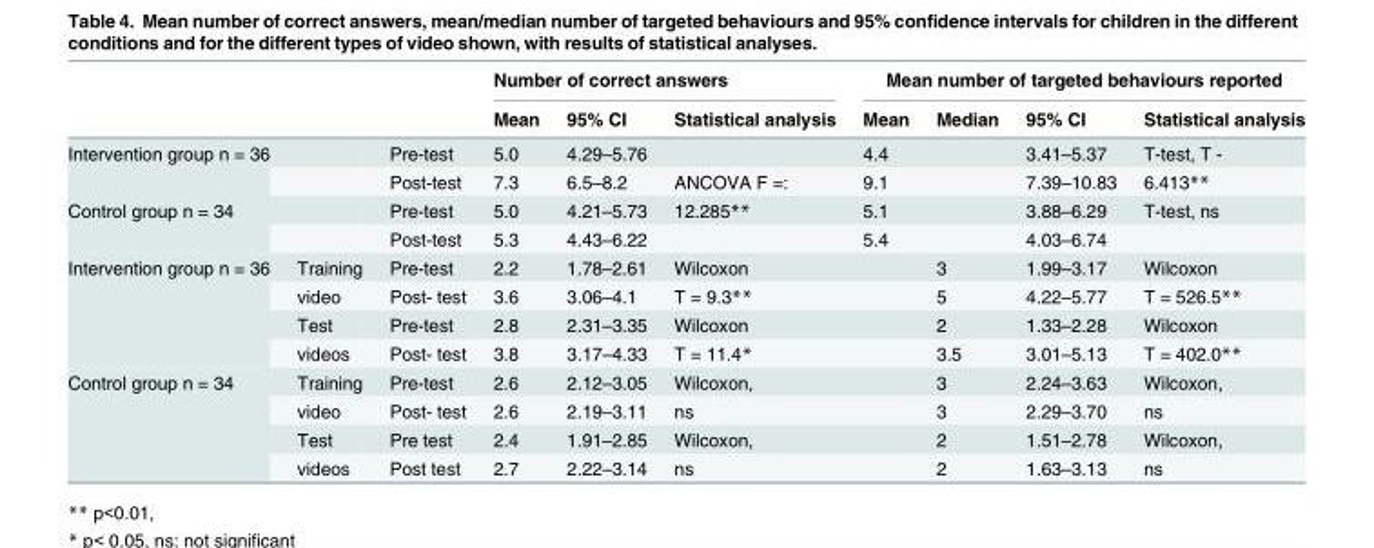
<table><thead><tr><td rowspan="2"></td><td rowspan="2"></td><td rowspan="2"></td><td colspan="3">Number of correct answers</td><td colspan="4">Mean number of targeted behaviours reported</td></tr><tr><td>Mean</td><td>95% CI</td><td>Statistical analysis</td><td>Mean</td><td>Median</td><td>95% CI</td><td>Statistical analysis</td></tr></thead><tbody><tr><td rowspan="2">Intervention group n = 36</td><td></td><td>Pre-test</td><td>5.0</td><td>4.29–5.76</td><td></td><td>4.4</td><td></td><td>3.41–5.37</td><td>T-test, T -</td></tr><tr><td></td><td>Post-test</td><td>7.3</td><td>6.5–8.2</td><td>ANCOVA F =:</td><td>9.1</td><td></td><td>7.39–10.83</td><td>6.413**</td></tr><tr><td rowspan="2">Control group n = 34</td><td></td><td>Pre-test</td><td>5.0</td><td>4.21–5.73</td><td>12.285**</td><td>5.1</td><td></td><td>3.88–6.29</td><td>T-test, ns</td></tr><tr><td></td><td>Post-test</td><td>5.3</td><td>4.43–6.22</td><td></td><td>5.4</td><td></td><td>4.03–6.74</td><td></td></tr><tr><td rowspan="4">Intervention group n = 36</td><td>Training</td><td>Pre-test</td><td>2.2</td><td>1.78–2.61</td><td>Wilcoxon</td><td></td><td>3</td><td>1.99–3.17</td><td>Wilcoxon</td></tr><tr><td>video</td><td>Post- test</td><td>3.6</td><td>3.06–4.1</td><td>T = 9.3**</td><td></td><td>5</td><td>4.22–5.77</td><td>T = 526.5**</td></tr><tr><td>Test</td><td>Pre-test</td><td>2.8</td><td>2.31–3.35</td><td>Wilcoxon</td><td></td><td>2</td><td>1.33–2.28</td><td>Wilcoxon</td></tr><tr><td>videos</td><td>Post- test</td><td>3.8</td><td>3.17–4.33</td><td>T = 11.4*</td><td></td><td>3.5</td><td>3.01–5.13</td><td>T = 402.0**</td></tr><tr><td rowspan="4">Control group n = 34</td><td>Training</td><td>Pre-test</td><td>2.6</td><td>2.12–3.05</td><td>Wilcoxon,</td><td></td><td>3</td><td>2.24–3.63</td><td>Wilcoxon,</td></tr><tr><td>video</td><td>Post- test</td><td>2.6</td><td>2.19–3.11</td><td>ns</td><td></td><td>3</td><td>2.29–3.70</td><td>ns</td></tr><tr><td>Test</td><td>Pre test</td><td>2.4</td><td>1.91–2.85</td><td>Wilcoxon,</td><td></td><td>2</td><td>1.51–2.78</td><td>Wilcoxon,</td></tr><tr><td>videos</td><td>Post test</td><td>2.7</td><td>2.22–3.14</td><td>ns</td><td></td><td>2</td><td>1.63–3.13</td><td>ns</td></tr></tbody></table>